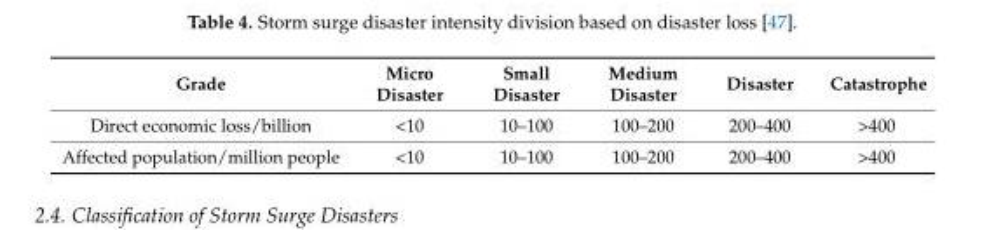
<table><thead><tr><td>Grade</td><td>Micro Disaster</td><td>Small Disaster</td><td>Medium Disaster</td><td>Disaster</td><td>Catastrophe</td></tr></thead><tbody><tr><td>Direct economic loss/billion</td><td>&lt;10</td><td>10–100</td><td>100–200</td><td>200–400</td><td>&gt;400</td></tr><tr><td>Affected population/million people</td><td>&lt;10</td><td>10–100</td><td>100–200</td><td>200–400</td><td>&gt;400</td></tr></tbody></table>